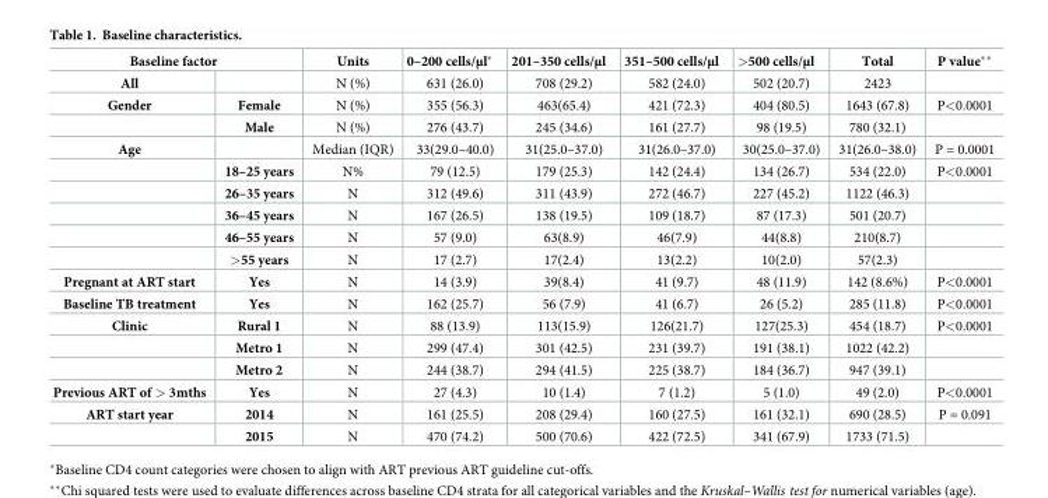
<table><thead><tr><td colspan="2">Baseline factor</td><td rowspan="2">Units N (%)</td><td rowspan="2">0–200 cells/μl* 631 (26.0)</td><td rowspan="2">201–350 cells/μl 708 (29.2)</td><td rowspan="2">351–500 cells/μl 582 (24.0)</td><td rowspan="2">&gt;500 cells/μl 502 (20.7)</td><td rowspan="2">Total 2423</td><td rowspan="2">P value**</td></tr><tr><td>All</td><td></td></tr></thead><tbody><tr><td rowspan="2">Gender</td><td>Female</td><td>N (%)</td><td>355 (56.3)</td><td>463(65.4)</td><td>421 (72.3)</td><td>404 (80.5)</td><td>1643 (67.8)</td><td>P&lt;0.0001</td></tr><tr><td>Male</td><td>N (%)</td><td>276 (43.7)</td><td>245 (34.6)</td><td>161 (27.7)</td><td>98 (19.5)</td><td>780 (32.1)</td><td></td></tr><tr><td rowspan="6">Age</td><td></td><td>Median (IQR)</td><td>33(29.0–40.0)</td><td>31(25.0–37.0)</td><td>31(26.0–37.0)</td><td>30(25.0–37.0)</td><td>31(26.0–38.0)</td><td>P = 0.0001</td></tr><tr><td>18–25 years</td><td>N%</td><td>79 (12.5)</td><td>179 (25.3)</td><td>142 (24.4)</td><td>134 (26.7)</td><td>534 (22.0)</td><td>P&lt;0.0001</td></tr><tr><td>26–35 years</td><td>N</td><td>312 (49.6)</td><td>311 (43.9)</td><td>272 (46.7)</td><td>227 (45.2)</td><td>1122 (46.3)</td><td></td></tr><tr><td>36–45 years</td><td>N</td><td>167 (26.5)</td><td>138 (19.5)</td><td>109 (18.7)</td><td>87 (17.3)</td><td>501 (20.7)</td><td></td></tr><tr><td>46–55 years</td><td>N</td><td>57 (9.0)</td><td>63(8.9)</td><td>46(7.9)</td><td>44(8.8)</td><td>210(8.7)</td><td></td></tr><tr><td>&gt;55 years</td><td>N</td><td>17 (2.7)</td><td>17(2.4)</td><td>13(2.2)</td><td>10(2.0)</td><td>57(2.3)</td><td></td></tr><tr><td>Pregnant at ART start</td><td>Yes</td><td>N</td><td>14 (3.9)</td><td>39(8.4)</td><td>41 (9.7)</td><td>48 (11.9)</td><td>142 (8.6%)</td><td>P&lt;0.0001</td></tr><tr><td>Baseline TB treatment</td><td>Yes</td><td>N</td><td>162 (25.7)</td><td>56 (7.9)</td><td>41 (6.7)</td><td>26 (5.2)</td><td>285 (11.8)</td><td>P&lt;0.0001</td></tr><tr><td rowspan="3">Clinic</td><td>Rural 1</td><td>N</td><td>88 (13.9)</td><td>113(15.9)</td><td>126(21.7)</td><td>127(25.3)</td><td>454 (18.7)</td><td>P&lt;0.0001</td></tr><tr><td>Metro 1</td><td>N</td><td>299 (47.4)</td><td>301 (42.5)</td><td>231 (39.7)</td><td>191 (38.1)</td><td>1022 (42.2)</td><td></td></tr><tr><td>Metro 2</td><td>N</td><td>244 (38.7)</td><td>294 (41.5)</td><td>225 (38.7)</td><td>184 (36.7)</td><td>947 (39.1)</td><td></td></tr><tr><td>Previous ART of &gt; 3mths</td><td>Yes</td><td>N</td><td>27 (4.3)</td><td>10 (1.4)</td><td>7 (1.2)</td><td>5 (1.0)</td><td>49 (2.0)</td><td>P&lt;0.0001</td></tr><tr><td rowspan="2">ART start year</td><td>2014</td><td>N</td><td>161 (25.5)</td><td>208 (29.4)</td><td>160 (27.5)</td><td>161 (32.1)</td><td>690 (28.5)</td><td>P = 0.091</td></tr><tr><td>2015</td><td>N</td><td>470 (74.2)</td><td>500 (70.6)</td><td>422 (72.5)</td><td>341 (67.9)</td><td>1733 (71.5)</td><td></td></tr></tbody></table>